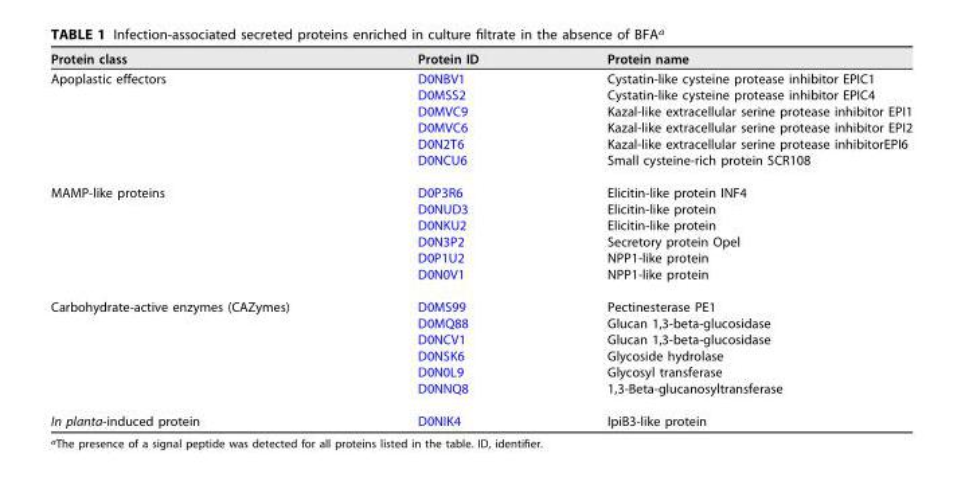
<table><thead><tr><td>Protein class</td><td>Protein ID</td><td>Protein name</td></tr></thead><tbody><tr><td rowspan="6">Apoplastic effectors</td><td>D0NBV1</td><td>Cystatin-like cysteine protease inhibitor EPIC1</td></tr><tr><td>D0MSS2</td><td>Cystatin-like cysteine protease inhibitor EPIC4</td></tr><tr><td>D0MVC9</td><td>Kazal-like extracellular serine protease inhibitor EPI1</td></tr><tr><td>D0MVC6</td><td>Kazal-like extracellular serine protease inhibitor EPI2</td></tr><tr><td>D0N2T6</td><td>Kazal-like extracellular serine protease inhibitorEPI6</td></tr><tr><td>D0NCU6</td><td>Small cysteine-rich protein SCR108</td></tr><tr><td rowspan="6">MAMP-like proteins</td><td>D0P3R6</td><td>Elicitin-like protein INF4</td></tr><tr><td>D0NUD3</td><td>Elicitin-like protein</td></tr><tr><td>D0NKU2</td><td>Elicitin-like protein</td></tr><tr><td>D0N3P2</td><td>Secretory protein Opel</td></tr><tr><td>D0P1U2</td><td>NPP1-like protein</td></tr><tr><td>D0N0V1</td><td>NPP1-like protein</td></tr><tr><td rowspan="6">Carbohydrate-active enzymes (CAZymes)</td><td>D0MS99</td><td>Pectinesterase PE1</td></tr><tr><td>D0MQ88</td><td>Glucan 1,3-beta-glucosidase</td></tr><tr><td>D0NCV1</td><td>Glucan 1,3-beta-glucosidase</td></tr><tr><td>D0NSK6</td><td>Glycoside hydrolase</td></tr><tr><td>D0N0L9</td><td>Glycosyl transferase</td></tr><tr><td>D0NNQ8</td><td>1,3-Beta-glucanosyltransferase</td></tr><tr><td>In planta-induced protein</td><td>D0NIK4</td><td>IpiB3-like protein</td></tr></tbody></table>